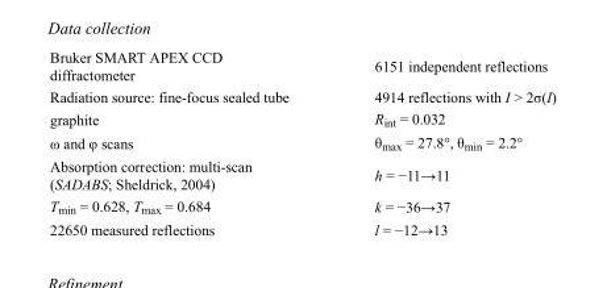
<table><tbody><tr><td>Bruker SMART APEX CCD diffractometer</td><td>6151 independent reflections</td></tr><tr><td>Radiation source: fine-focus sealed tube</td><td>4914 reflections with I &gt; 2σ(I)</td></tr><tr><td>graphite</td><td>R<sub>int</sub> = 0.032</td></tr><tr><td>ω and φ scans</td><td>θ<sub>max</sub> = 27.8°, θ<sub>min</sub> = 2.2°</td></tr><tr><td>Absorption correction: multi-scan (SADABS; Sheldrick, 2004)</td><td>h = −11→11</td></tr><tr><td>T<sub>min</sub> = 0.628, T<sub>max</sub> = 0.684</td><td>k = −36→37</td></tr><tr><td>22650 measured reflections</td><td>l = −12→13</td></tr></tbody></table>